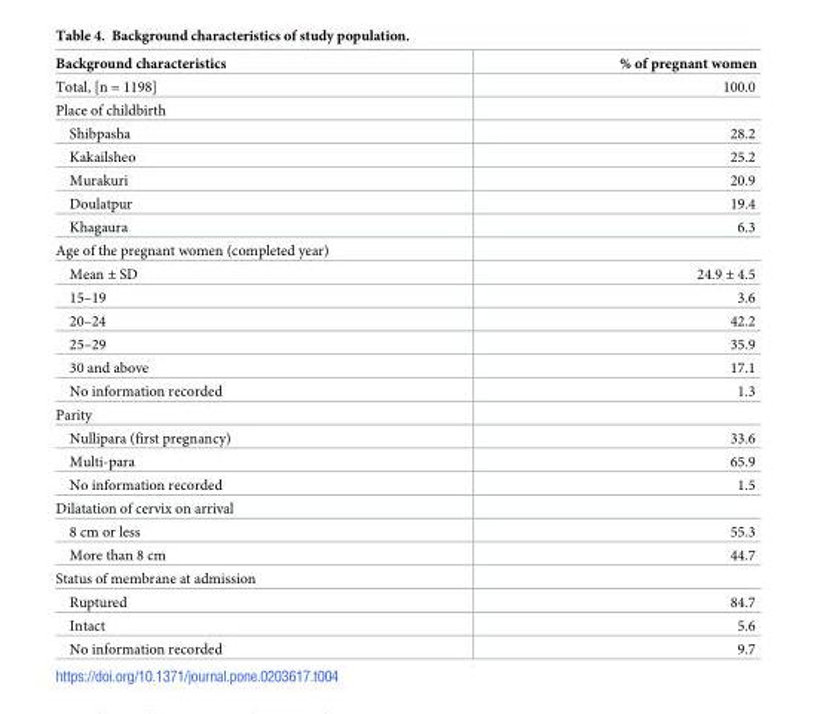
<table><thead><tr><td>Background characteristics</td><td>% of pregnant women</td></tr></thead><tbody><tr><td>Total, [n = 1198]</td><td>100.0</td></tr><tr><td colspan="2">Place of childbirth</td></tr><tr><td>Shibpasha</td><td>28.2</td></tr><tr><td>Kakailsheo</td><td>25.2</td></tr><tr><td>Murakuri</td><td>20.9</td></tr><tr><td>Doulatpur</td><td>19.4</td></tr><tr><td>Khagaura</td><td>6.3</td></tr><tr><td colspan="2">Age of the pregnant women (completed year)</td></tr><tr><td>Mean ± SD</td><td>24.9 ± 4.5</td></tr><tr><td>15–19</td><td>3.6</td></tr><tr><td>20–24</td><td>42.2</td></tr><tr><td>25–29</td><td>35.9</td></tr><tr><td>30 and above</td><td>17.1</td></tr><tr><td>No information recorded</td><td>1.3</td></tr><tr><td colspan="2">Parity</td></tr><tr><td>Nullipara (first pregnancy)</td><td>33.6</td></tr><tr><td>Multi-para</td><td>65.9</td></tr><tr><td>No information recorded</td><td>1.5</td></tr><tr><td colspan="2">Dilatation of cervix on arrival</td></tr><tr><td>8 cm or less</td><td>55.3</td></tr><tr><td>More than 8 cm</td><td>44.7</td></tr><tr><td colspan="2">Status of membrane at admission</td></tr><tr><td>Ruptured</td><td>84.7</td></tr><tr><td>Intact</td><td>5.6</td></tr><tr><td>No information recorded</td><td>9.7</td></tr></tbody></table>